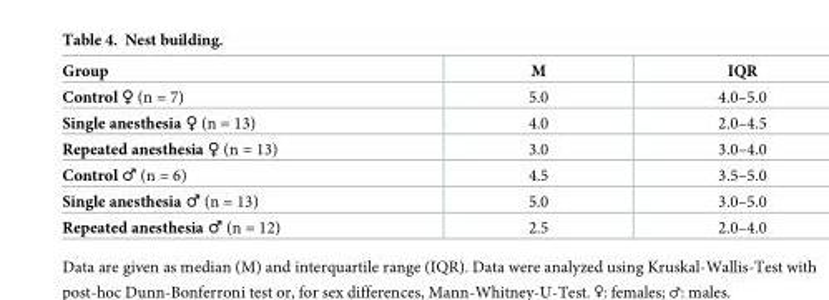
<table><thead><tr><td>Group</td><td>M</td><td>IQR</td></tr></thead><tbody><tr><td>Control ♀ (n = 7)</td><td>5.0</td><td>4.0–5.0</td></tr><tr><td>Single anesthesia ♀ (n = 13)</td><td>4.0</td><td>2.0–4.5</td></tr><tr><td>Repeated anesthesia ♀ (n = 13)</td><td>3.0</td><td>3.0–4.0</td></tr><tr><td>Control ♂ (n = 6)</td><td>4.5</td><td>3.5–5.0</td></tr><tr><td>Single anesthesia ♂ (n = 13)</td><td>5.0</td><td>3.0–5.0</td></tr><tr><td>Repeated anesthesia ♂ (n = 12)</td><td>2.5</td><td>2.0–4.0</td></tr></tbody></table>